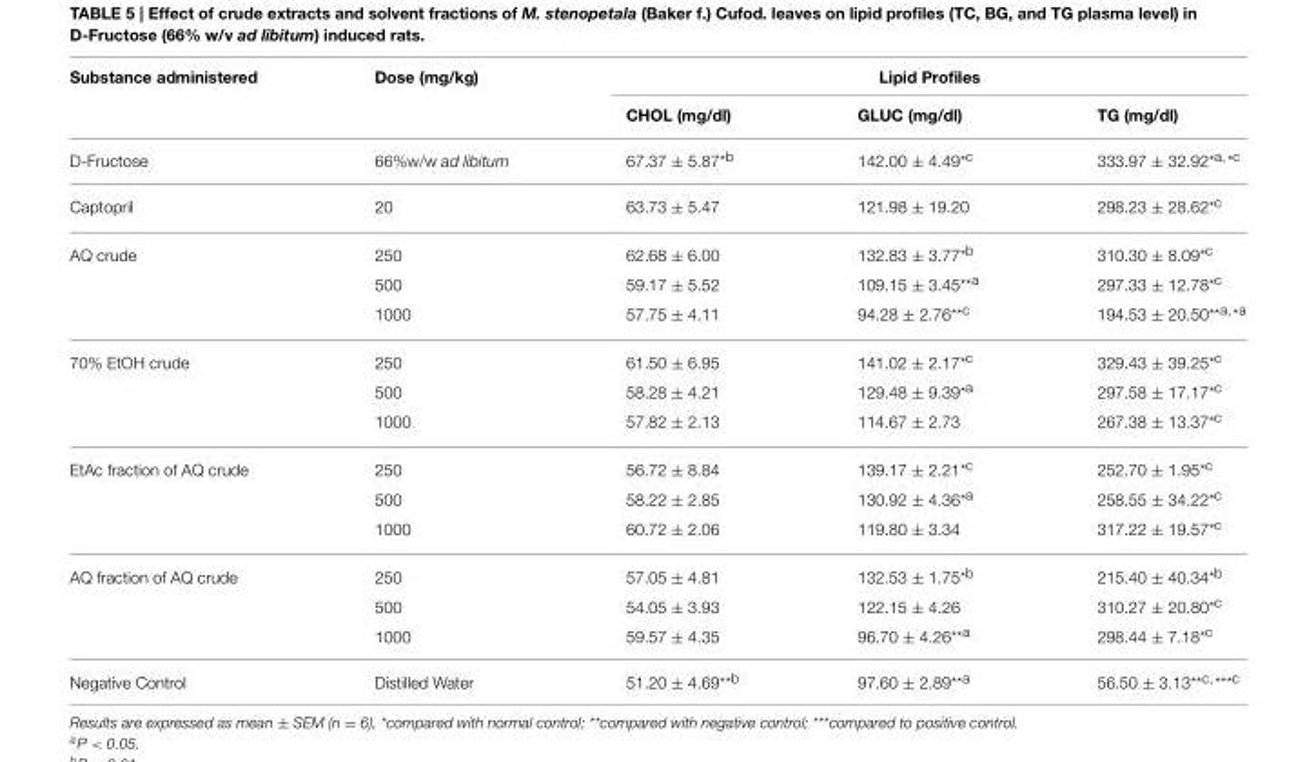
<table><thead><tr><td rowspan="2">Substance administered</td><td rowspan="2">Dose (mg/kg)</td><td colspan="3">Lipid Profiles</td></tr><tr><td>CHOL (mg/dl)</td><td>GLUC (mg/dl)</td><td>TG (mg/dl)</td></tr></thead><tbody><tr><td>D-Fructose</td><td>66%w/w ad libitum</td><td>67.37 ± 5.87<sup>*b</sup></td><td>142.00 ± 4.49<sup>*c</sup></td><td>333.97 ± 32.92<sup>*a,*c</sup></td></tr><tr><td>Captopril</td><td>20</td><td>63.73 ± 5.47</td><td>121.98 ± 19.20</td><td>298.23 ± 28.62<sup>*c</sup></td></tr><tr><td rowspan="3">AQ crude</td><td>250</td><td>62.68 ± 6.00</td><td>132.83 ± 3.77<sup>*b</sup></td><td>310.30 ± 8.09<sup>*c</sup></td></tr><tr><td>500</td><td>59.17 ± 5.52</td><td>109.15 ± 3.45<sup>**a</sup></td><td>297.33 ± 12.78<sup>*c</sup></td></tr><tr><td>1000</td><td>57.75 ± 4.11</td><td>94.28 ± 2.76<sup>**c</sup></td><td>194.53 ± 20.50<sup>**a,*a</sup></td></tr><tr><td rowspan="3">70% EtOH crude</td><td>250</td><td>61.50 ± 6.95</td><td>141.02 ± 2.17<sup>*c</sup></td><td>329.43 ± 39.25<sup>*c</sup></td></tr><tr><td>500</td><td>58.28 ± 4.21</td><td>129.48 ± 9.39<sup>*a</sup></td><td>297.58 ± 17.17<sup>*c</sup></td></tr><tr><td>1000</td><td>57.82 ± 2.13</td><td>114.67 ± 2.73</td><td>267.38 ± 13.37<sup>*c</sup></td></tr><tr><td rowspan="3">EtAc fraction of AQ crude</td><td>250</td><td>56.72 ± 8.84</td><td>139.17 ± 2.21<sup>*c</sup></td><td>252.70 ± 1.95<sup>*c</sup></td></tr><tr><td>500</td><td>58.22 ± 2.85</td><td>130.92 ± 4.36<sup>*a</sup></td><td>258.55 ± 34.22<sup>*c</sup></td></tr><tr><td>1000</td><td>60.72 ± 2.06</td><td>119.80 ± 3.34</td><td>317.22 ± 19.57<sup>*c</sup></td></tr><tr><td rowspan="3">AQ fraction of AQ crude</td><td>250</td><td>57.05 ± 4.81</td><td>132.53 ± 1.75<sup>*b</sup></td><td>215.40 ± 40.34<sup>*b</sup></td></tr><tr><td>500</td><td>54.05 ± 3.93</td><td>122.15 ± 4.26</td><td>310.27 ± 20.80<sup>*c</sup></td></tr><tr><td>1000</td><td>59.57 ± 4.35</td><td>96.70 ± 4.26<sup>**a</sup></td><td>298.44 ± 7.18<sup>*c</sup></td></tr><tr><td>Negative Control</td><td>Distilled Water</td><td>51.20 ± 4.69<sup>**b</sup></td><td>97.60 ± 2.89<sup>**a</sup></td><td>56.50 ± 3.13<sup>**c,***c</sup></td></tr></tbody></table>